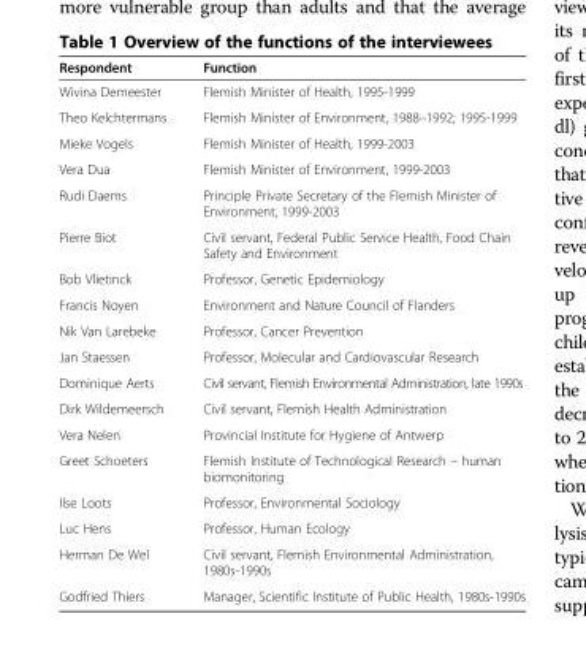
<table><thead><tr><td>Respondent</td><td>Function</td></tr></thead><tbody><tr><td>Wivina Demeester</td><td>Flemish Minister of Health, 1995-1999</td></tr><tr><td>Theo Kelchtermans</td><td>Flemish Minister of Environment, 1988–1992; 1995-1999</td></tr><tr><td>Mieke Vogels</td><td>Flemish Minister of Health, 1999-2003</td></tr><tr><td>Vera Dua</td><td>Flemish Minister of Environment, 1999-2003</td></tr><tr><td>Rudi Daems</td><td>Principle Private Secretary of the Flemish Minister of Environment, 1999-2003</td></tr><tr><td>Pierre Biot</td><td>Civil servant, Federal Public Service Health, Food Chain Safety and Environment</td></tr><tr><td>Bob Vlietinck</td><td>Professor, Genetic Epidemiology</td></tr><tr><td>Francis Noyen</td><td>Environment and Nature Council of Flanders</td></tr><tr><td>Nik Van Larebeke</td><td>Professor, Cancer Prevention</td></tr><tr><td>Jan Staessen</td><td>Professor, Molecular and Cardiovascular Research</td></tr><tr><td>Dominique Aerts</td><td>Civil servant, Flemish Environmental Administration, late 1990s</td></tr><tr><td>Dirk Wildemeersch</td><td>Civil servant, Flemish Health Administration</td></tr><tr><td>Vera Nelen</td><td>Provincial Institute for Hygiene of Antwerp</td></tr><tr><td>Greet Schoeters</td><td>Flemish Institute of Technological Research – human biomonitoring</td></tr><tr><td>Ilse Loots</td><td>Professor, Environmental Sociology</td></tr><tr><td>Luc Hens</td><td>Professor, Human Ecology</td></tr><tr><td>Herman De Wel</td><td>Civil servant, Flemish Environmental Administration, 1980s-1990s</td></tr><tr><td>Godfried Thiers</td><td>Manager, Scientific Institute of Public Health, 1980s-1990s</td></tr></tbody></table>